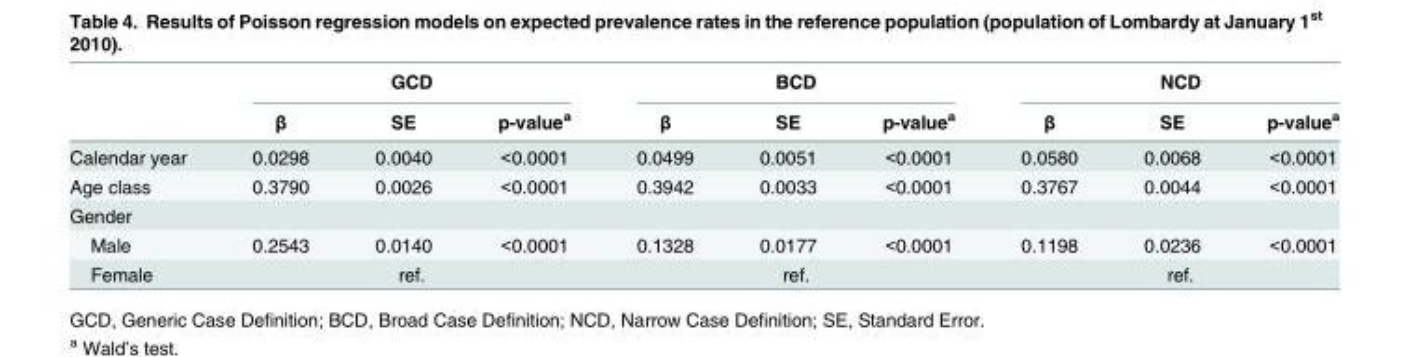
<table><thead><tr><td rowspan="2"></td><td colspan="3">GCD</td><td colspan="3">BCD</td><td colspan="3">NCD</td></tr><tr><td>β</td><td>SE</td><td>p-value<sup>a</sup></td><td>β</td><td>SE</td><td>p-value<sup>a</sup></td><td>β</td><td>SE</td><td>p-value<sup>a</sup></td></tr></thead><tbody><tr><td>Calendar year</td><td>0.0298</td><td>0.0040</td><td>&lt;0.0001</td><td>0.0499</td><td>0.0051</td><td>&lt;0.0001</td><td>0.0580</td><td>0.0068</td><td>&lt;0.0001</td></tr><tr><td>Age class</td><td>0.3790</td><td>0.0026</td><td>&lt;0.0001</td><td>0.3942</td><td>0.0033</td><td>&lt;0.0001</td><td>0.3767</td><td>0.0044</td><td>&lt;0.0001</td></tr><tr><td colspan="10">Gender</td></tr><tr><td>Male</td><td>0.2543</td><td>0.0140</td><td>&lt;0.0001</td><td>0.1328</td><td>0.0177</td><td>&lt;0.0001</td><td>0.1198</td><td>0.0236</td><td>&lt;0.0001</td></tr><tr><td>Female</td><td colspan="3">ref.</td><td colspan="3">ref.</td><td colspan="3">ref.</td></tr></tbody></table>